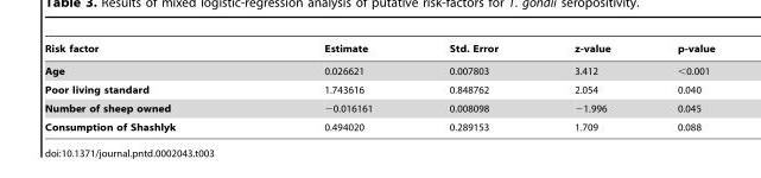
<table><thead><tr><td>Risk factor</td><td>Estimate</td><td>Std. Error</td><td>z-value</td><td>p-value</td></tr></thead><tbody><tr><td>Age</td><td>0.026621</td><td>0.007803</td><td>3.412</td><td>&lt;0.001</td></tr><tr><td>Poor living standard</td><td>1.743616</td><td>0.848762</td><td>2.054</td><td>0.040</td></tr><tr><td>Number of sheep owned</td><td>−0.016161</td><td>0.008098</td><td>−1.996</td><td>0.045</td></tr><tr><td>Consumption of Shashlyk</td><td>0.494020</td><td>0.289153</td><td>1.709</td><td>0.088</td></tr></tbody></table>